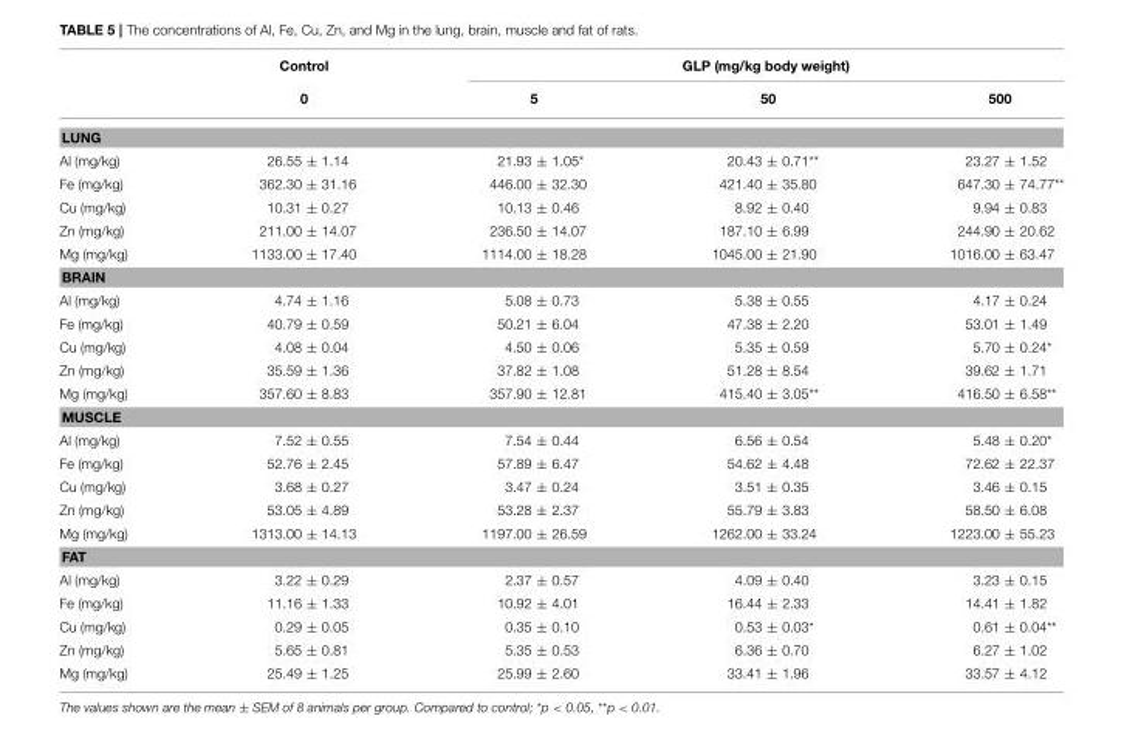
<table><thead><tr><td rowspan="2"></td><td rowspan="2">Control 0</td><td colspan="3">GLP (mg/kg body weight)</td></tr><tr><td>5</td><td>50</td><td>500</td></tr></thead><tbody><tr><td colspan="5">LUNG</td></tr><tr><td>Al (mg/kg)</td><td>26.55 ± 1.14</td><td>21.93 ± 1.05*</td><td>20.43 ± 0.71**</td><td>23.27 ± 1.52</td></tr><tr><td>Fe (mg/kg)</td><td>362.30 ± 31.16</td><td>446.00 ± 32.30</td><td>421.40 ± 35.80</td><td>647.30 ± 74.77**</td></tr><tr><td>Cu (mg/kg)</td><td>10.31 ± 0.27</td><td>10.13 ± 0.46</td><td>8.92 ± 0.40</td><td>9.94 ± 0.83</td></tr><tr><td>Zn (mg/kg)</td><td>211.00 ± 14.07</td><td>236.50 ± 14.07</td><td>187.10 ± 6.99</td><td>244.90 ± 20.62</td></tr><tr><td>Mg (mg/kg)</td><td>1133.00 ± 17.40</td><td>1114.00 ± 18.28</td><td>1045.00 ± 21.90</td><td>1016.00 ± 63.47</td></tr><tr><td colspan="5">BRAIN</td></tr><tr><td>Al (mg/kg)</td><td>4.74 ± 1.16</td><td>5.08 ± 0.73</td><td>5.38 ± 0.55</td><td>4.17 ± 0.24</td></tr><tr><td>Fe (mg/kg)</td><td>40.79 ± 0.59</td><td>50.21 ± 6.04</td><td>47.38 ± 2.20</td><td>53.01 ± 1.49</td></tr><tr><td>Cu (mg/kg)</td><td>4.08 ± 0.04</td><td>4.50 ± 0.06</td><td>5.35 ± 0.59</td><td>5.70 ± 0.24*</td></tr><tr><td>Zn (mg/kg)</td><td>35.59 ± 1.36</td><td>37.82 ± 1.08</td><td>51.28 ± 8.54</td><td>39.62 ± 1.71</td></tr><tr><td>Mg (mg/kg)</td><td>357.60 ± 8.83</td><td>357.90 ± 12.81</td><td>415.40 ± 3.05**</td><td>416.50 ± 6.58**</td></tr><tr><td colspan="5">MUSCLE</td></tr><tr><td>Al (mg/kg)</td><td>7.52 ± 0.55</td><td>7.54 ± 0.44</td><td>6.56 ± 0.54</td><td>5.48 ± 0.20*</td></tr><tr><td>Fe (mg/kg)</td><td>52.76 ± 2.45</td><td>57.89 ± 6.47</td><td>54.62 ± 4.48</td><td>72.62 ± 22.37</td></tr><tr><td>Cu (mg/kg)</td><td>3.68 ± 0.27</td><td>3.47 ± 0.24</td><td>3.51 ± 0.35</td><td>3.46 ± 0.15</td></tr><tr><td>Zn (mg/kg)</td><td>53.05 ± 4.89</td><td>53.28 ± 2.37</td><td>55.79 ± 3.83</td><td>58.50 ± 6.08</td></tr><tr><td>Mg (mg/kg)</td><td>1313.00 ± 14.13</td><td>1197.00 ± 26.59</td><td>1262.00 ± 33.24</td><td>1223.00 ± 55.23</td></tr><tr><td colspan="5">FAT</td></tr><tr><td>Al (mg/kg)</td><td>3.22 ± 0.29</td><td>2.37 ± 0.57</td><td>4.09 ± 0.40</td><td>3.23 ± 0.15</td></tr><tr><td>Fe (mg/kg)</td><td>11.16 ± 1.33</td><td>10.92 ± 4.01</td><td>16.44 ± 2.33</td><td>14.41 ± 1.82</td></tr><tr><td>Cu (mg/kg)</td><td>0.29 ± 0.05</td><td>0.35 ± 0.10</td><td>0.53 ± 0.03*</td><td>0.61 ± 0.04**</td></tr><tr><td>Zn (mg/kg)</td><td>5.65 ± 0.81</td><td>5.35 ± 0.53</td><td>6.36 ± 0.70</td><td>6.27 ± 1.02</td></tr><tr><td>Mg (mg/kg)</td><td>25.49 ± 1.25</td><td>25.99 ± 2.60</td><td>33.41 ± 1.96</td><td>33.57 ± 4.12</td></tr></tbody></table>